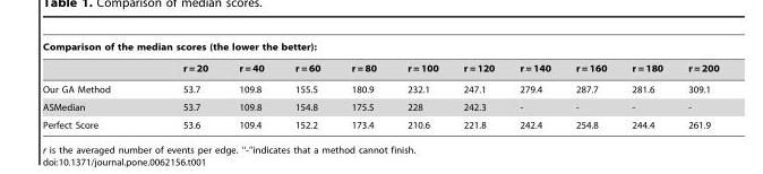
<table><thead><tr><td colspan="11">Comparison of the median scores (the lower the better):</td></tr><tr><td></td><td>r = 20</td><td>r = 40</td><td>r = 60</td><td>r = 80</td><td>r = 100</td><td>r = 120</td><td>r = 140</td><td>r = 160</td><td>r = 180</td><td>r = 200</td></tr></thead><tbody><tr><td>Our GA Method</td><td>53.7</td><td>109.8</td><td>155.5</td><td>180.9</td><td>232.1</td><td>247.1</td><td>279.4</td><td>287.7</td><td>281.6</td><td>309.1</td></tr><tr><td>ASMedian</td><td>53.7</td><td>109.8</td><td>154.8</td><td>175.5</td><td>228</td><td>242.3</td><td>-</td><td>-</td><td>-</td><td>-</td></tr><tr><td>Perfect Score</td><td>53.6</td><td>109.4</td><td>152.2</td><td>173.4</td><td>210.6</td><td>221.8</td><td>242.4</td><td>254.8</td><td>244.4</td><td>261.9</td></tr></tbody></table>